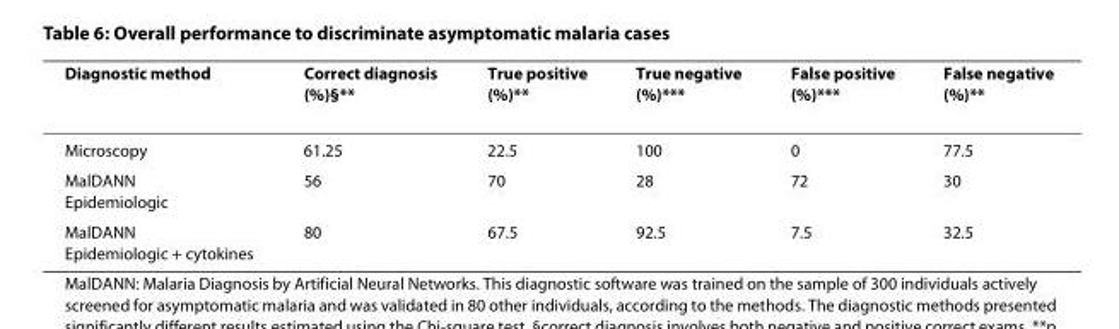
<table><thead><tr><td>Diagnostic method</td><td>Correct diagnosis (%)§**</td><td>True positive (%)**</td><td>True negative (%)***</td><td>False positive (%)***</td><td>False negative (%)**</td></tr></thead><tbody><tr><td>Microscopy</td><td>61.25</td><td>22.5</td><td>100</td><td>0</td><td>77.5</td></tr><tr><td>MalDANN Epidemiologic</td><td>56</td><td>70</td><td>28</td><td>72</td><td>30</td></tr><tr><td>MalDANN Epidemiologic + cytokines</td><td>80</td><td>67.5</td><td>92.5</td><td>7.5</td><td>32.5</td></tr></tbody></table>